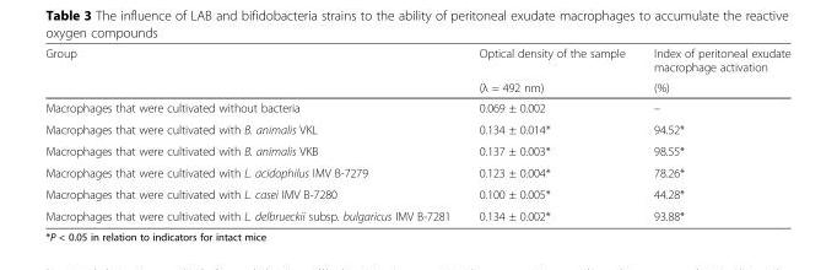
<table><thead><tr><td rowspan="2">Group</td><td rowspan="2">Optical density of the sample (λ = 492 nm)</td><td rowspan="2">Index of peritoneal exudate macrophage activation (%)</td></tr><tr></tr></thead><tbody><tr><td>Macrophages that were cultivated without bacteria</td><td>0.069 ± 0.002</td><td>–</td></tr><tr><td>Macrophages that were cultivated with B. animalis VKL</td><td>0.134 ± 0.014*</td><td>94.52*</td></tr><tr><td>Macrophages that were cultivated with B. animalis VKB</td><td>0.137 ± 0.003*</td><td>98.55*</td></tr><tr><td>Macrophages that were cultivated with L. acidophilus IMV В-7279</td><td>0.123 ± 0.004*</td><td>78.26*</td></tr><tr><td>Macrophages that were cultivated with L. casei IMV В-7280</td><td>0.100 ± 0.005*</td><td>44.28*</td></tr><tr><td>Macrophages that were cultivated with L. delbruеckii subsp. bulgaricus IMV В-7281</td><td>0.134 ± 0.002*</td><td>93.88*</td></tr></tbody></table>